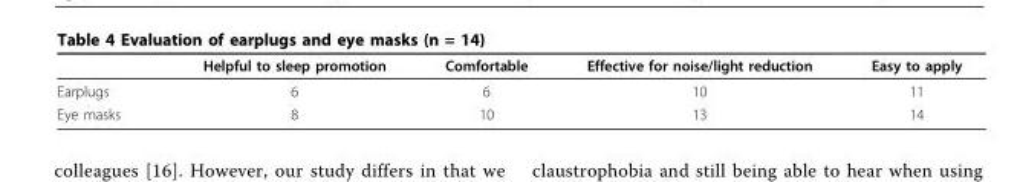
<table><thead><tr><td></td><td>Helpful to sleep promotion</td><td>Comfortable</td><td>Effective for noise/light reduction</td><td>Easy to apply</td></tr></thead><tbody><tr><td>Earplugs</td><td>6</td><td>6</td><td>10</td><td>11</td></tr><tr><td>Eye masks</td><td>8</td><td>10</td><td>13</td><td>14</td></tr></tbody></table>